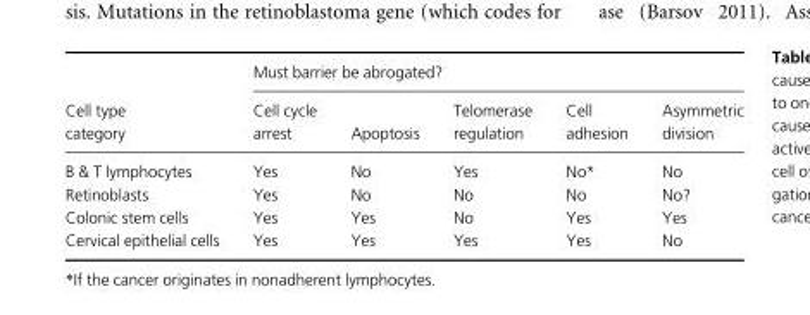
<table><thead><tr><td rowspan="2">Cell type category</td><td colspan="5">Must barrier be abrogated?</td></tr><tr><td>Cell cycle arrest</td><td>Apoptosis</td><td>Telomerase regulation</td><td>Cell adhesion</td><td>Asymmetric division</td></tr></thead><tbody><tr><td>B &amp; T lymphocytes</td><td>Yes</td><td>No</td><td>Yes</td><td>No*</td><td>No</td></tr><tr><td>Retinoblasts</td><td>Yes</td><td>No</td><td>No</td><td>No</td><td>No?</td></tr><tr><td>Colonic stem cells</td><td>Yes</td><td>Yes</td><td>No</td><td>Yes</td><td>Yes</td></tr><tr><td>Cervical epithelial cells</td><td>Yes</td><td>Yes</td><td>Yes</td><td>Yes</td><td>No</td></tr></tbody></table>